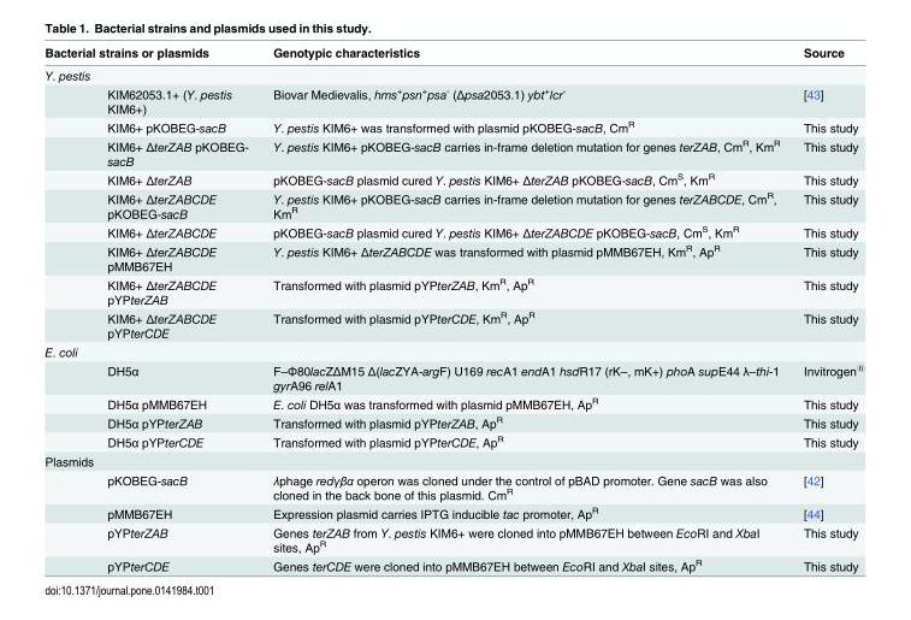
<table><thead><tr><td colspan="2">Bacterial strains or plasmids</td><td rowspan="2">Genotypic characteristics</td><td rowspan="2">Source</td></tr><tr><td>Y. pestis</td><td></td></tr></thead><tbody><tr><td></td><td>KIM62053.1+ (Y. pestis KIM6+)</td><td>Biovar Medievalis, hms<sup>+</sup>psn<sup>+</sup>psa<sup>-</sup> (Δpsa2053.1) ybt<sup>+</sup>lcr<sup>-</sup></td><td>[43]</td></tr><tr><td></td><td>KIM6+ pKOBEG-sacB</td><td>Y. pestis KIM6+ was transformed with plasmid pKOBEG-sacB, Cm<sup>R</sup></td><td>This study</td></tr><tr><td></td><td>KIM6+ ΔterZAB pKOBEG- sacB</td><td>Y. pestis KIM6+ pKOBEG-sacB carries in-frame deletion mutation for genes terZAB, Cm<sup>R</sup>, Km<sup>R</sup></td><td>This study</td></tr><tr><td></td><td>KIM6+ ΔterZAB</td><td>pKOBEG-sacB plasmid cured Y. pestis KIM6+ ΔterZAB pKOBEG-sacB, Cm<sup>S</sup>, Km<sup>R</sup></td><td>This study</td></tr><tr><td></td><td>KIM6+ ΔterZABCDE pKOBEG-sacB</td><td>Y. pestis KIM6+ pKOBEG-sacB carries in-frame deletion mutation for genes terZABCDE, Cm<sup>R</sup>, Km<sup>R</sup></td><td>This study</td></tr><tr><td></td><td>KIM6+ ΔterZABCDE</td><td>pKOBEG-sacB plasmid cured Y. pestis KIM6+ ΔterZABCDE pKOBEG-sacB, Cm<sup>S</sup>, Km<sup>R</sup></td><td>This study</td></tr><tr><td></td><td>KIM6+ ΔterZABCDE pMMB67EH</td><td>Y. pestis KIM6+ ΔterZABCDE was transformed with plasmid pMMB67EH, Km<sup>R</sup>, Ap<sup>R</sup></td><td>This study</td></tr><tr><td></td><td>KIM6+ ΔterZABCDE pYPterZAB</td><td>Transformed with plasmid pYPterZAB, Km<sup>R</sup>, Ap<sup>R</sup></td><td>This study</td></tr><tr><td></td><td>KIM6+ ΔterZABCDE pYPterCDE</td><td>Transformed with plasmid pYPterCDE, Km<sup>R</sup>, Ap<sup>R</sup></td><td>This study</td></tr><tr><td colspan="4">E. coli</td></tr><tr><td></td><td>DH5α</td><td>F–Φ80lacZΔM15 Δ(lacZYA-argF) U169 recA1 endA1 hsdR17 (rK–, mK+) phoA supE44 λ–thi-1 gyrA96 relA1</td><td>Invitrogen<sup>®</sup></td></tr><tr><td></td><td>DH5α pMMB67EH</td><td>E. coli DH5α was transformed with plasmid pMMB67EH, Ap<sup>R</sup></td><td>This study</td></tr><tr><td></td><td>DH5α pYPterZAB</td><td>Transformed with plasmid pYPterZAB, Ap<sup>R</sup></td><td>This study</td></tr><tr><td></td><td>DH5α pYPterCDE</td><td>Transformed with plasmid pYPterCDE, Ap<sup>R</sup></td><td>This study</td></tr><tr><td colspan="4">Plasmids</td></tr><tr><td></td><td>pKOBEG-sacB</td><td>λphage redγβα operon was cloned under the control of pBAD promoter. Gene sacB was also cloned in the back bone of this plasmid. Cm<sup>R</sup></td><td>[42]</td></tr><tr><td></td><td>pMMB67EH</td><td>Expression plasmid carries IPTG inducible tac promoter, Ap<sup>R</sup></td><td>[44]</td></tr><tr><td></td><td>pYPterZAB</td><td>Genes terZAB from Y. pestis KIM6+ were cloned into pMMB67EH between EcoRI and XbaI sites, Ap<sup>R</sup></td><td>This study</td></tr><tr><td></td><td>pYPterCDE</td><td>Genes terCDE were cloned into pMMB67EH between EcoRI and XbaI sites, Ap<sup>R</sup></td><td>This study</td></tr></tbody></table>